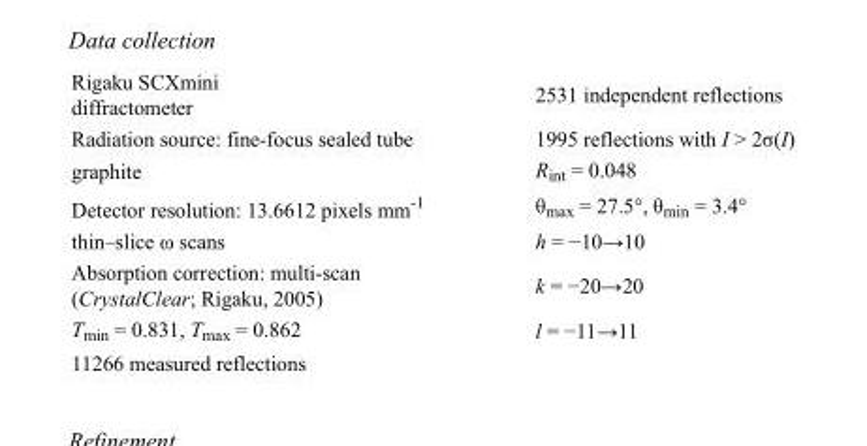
<table><tbody><tr><td>Rigaku SCXmini diffractometer</td><td>2531 independent reflections</td></tr><tr><td>Radiation source: fine-focus sealed tube</td><td>1995 reflections with I &gt; 2σ(I)</td></tr><tr><td>graphite</td><td>R<sub>int</sub> = 0.048</td></tr><tr><td>Detector resolution: 13.6612 pixels mm<sup>-1</sup></td><td>θ<sub>max</sub> = 27.5°, θ<sub>min</sub> = 3.4°</td></tr><tr><td>thin–slice ω scans</td><td>h = −10→10</td></tr><tr><td>Absorption correction: multi-scan (CrystalClear; Rigaku, 2005)</td><td>k = −20→20</td></tr><tr><td>T<sub>min</sub> = 0.831, T<sub>max</sub> = 0.862</td><td>l = −11→11</td></tr><tr><td>11266 measured reflections</td><td></td></tr></tbody></table>